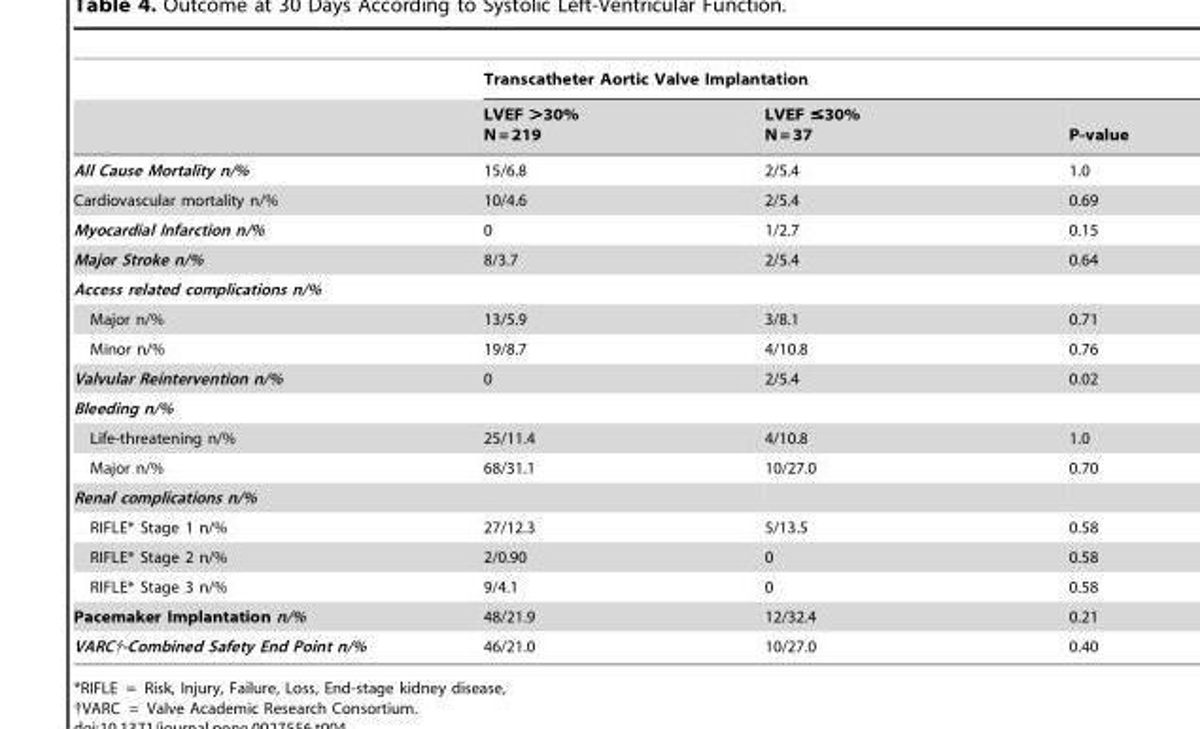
<table><thead><tr><td rowspan="2"></td><td colspan="3">Transcatheter Aortic Valve Implantation</td></tr><tr><td>LVEF &gt;30% N = 219</td><td>LVEF ≤30% N = 37</td><td>P-value</td></tr></thead><tbody><tr><td>All Cause Mortality n/%</td><td>15/6.8</td><td>2/5.4</td><td>1.0</td></tr><tr><td>Cardiovascular mortality n/%</td><td>10/4.6</td><td>2/5.4</td><td>0.69</td></tr><tr><td>Myocardial Infarction n/%</td><td>0</td><td>1/2.7</td><td>0.15</td></tr><tr><td>Major Stroke n/%</td><td>8/3.7</td><td>2/5.4</td><td>0.64</td></tr><tr><td colspan="4">Access related complications n/%</td></tr><tr><td>Major n/%</td><td>13/5.9</td><td>3/8.1</td><td>0.71</td></tr><tr><td>Minor n/%</td><td>19/8.7</td><td>4/10.8</td><td>0.76</td></tr><tr><td>Valvular Reintervention n/%</td><td>0</td><td>2/5.4</td><td>0.02</td></tr><tr><td colspan="4">Bleeding n/%</td></tr><tr><td>Life-threatening n/%</td><td>25/11.4</td><td>4/10.8</td><td>1.0</td></tr><tr><td>Major n/%</td><td>68/31.1</td><td>10/27.0</td><td>0.70</td></tr><tr><td colspan="4">Renal complications n/%</td></tr><tr><td>RIFLE* Stage 1 n/%</td><td>27/12.3</td><td>5/13.5</td><td>0.58</td></tr><tr><td>RIFLE* Stage 2 n/%</td><td>2/0.90</td><td>0</td><td>0.58</td></tr><tr><td>RIFLE* Stage 3 n/%</td><td>9/4.1</td><td>0</td><td>0.58</td></tr><tr><td>Pacemaker Implantation n/%</td><td>48/21.9</td><td>12/32.4</td><td>0.21</td></tr><tr><td>VARC†-Combined Safety End Point n/%</td><td>46/21.0</td><td>10/27.0</td><td>0.40</td></tr></tbody></table>